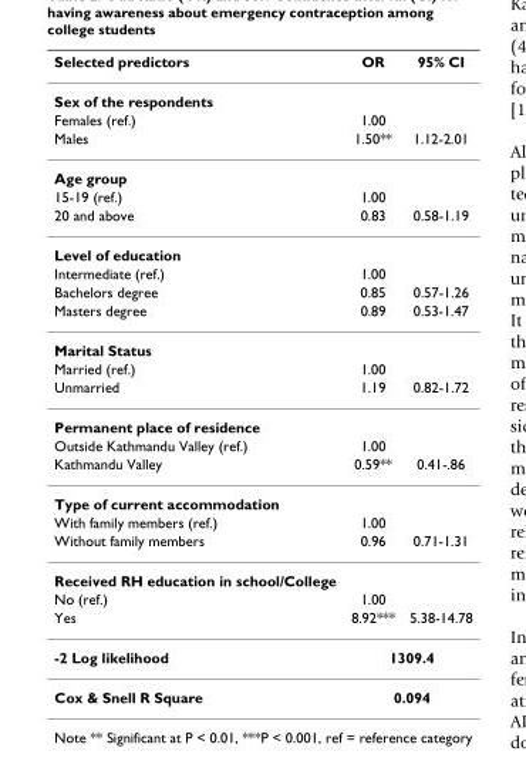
<table><thead><tr><td>Selected predictors</td><td>OR</td><td>95% CI</td></tr></thead><tbody><tr><td colspan="3">Sex of the respondents</td></tr><tr><td>Females (ref.)</td><td>1.00</td><td></td></tr><tr><td>Males</td><td>1.50**</td><td>1.12-2.01</td></tr><tr><td colspan="3">Age group</td></tr><tr><td>15-19 (ref.)</td><td>1.00</td><td></td></tr><tr><td>20 and above</td><td>0.83</td><td>0.58-1.19</td></tr><tr><td colspan="3">Level of education</td></tr><tr><td>Intermediate (ref.)</td><td>1.00</td><td></td></tr><tr><td>Bachelors degree</td><td>0.85</td><td>0.57-1.26</td></tr><tr><td>Masters degree</td><td>0.89</td><td>0.53-1.47</td></tr><tr><td colspan="3">Marital Status</td></tr><tr><td>Married (ref.)</td><td>1.00</td><td></td></tr><tr><td>Unmarried</td><td>1.19</td><td>0.82-1.72</td></tr><tr><td colspan="3">Permanent place of residence</td></tr><tr><td>Outside Kathmandu Valley (ref.)</td><td>1.00</td><td></td></tr><tr><td>Kathmandu Valley</td><td>0.59**</td><td>0.41-.86</td></tr><tr><td colspan="3">Type of current accommodation</td></tr><tr><td>With family members (ref.)</td><td>1.00</td><td></td></tr><tr><td>Without family members</td><td>0.96</td><td>0.71-1.31</td></tr><tr><td colspan="3">Received RH education in school/College</td></tr><tr><td>No (ref.)</td><td>1.00</td><td></td></tr><tr><td>Yes</td><td>8.92***</td><td>5.38-14.78</td></tr><tr><td>-2 Log likelihood</td><td colspan="2">1309.4</td></tr><tr><td>Cox &amp; Snell R Square</td><td colspan="2">0.094</td></tr></tbody></table>